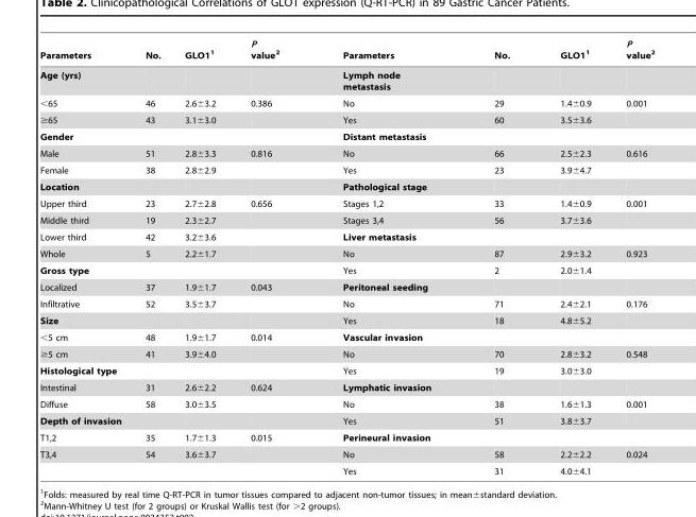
<table><thead><tr><td>Parameters</td><td>No.</td><td>GLO1<sup>1</sup></td><td>P value<sup>2</sup></td><td>Parameters</td><td>No.</td><td>GLO1<sup>1</sup></td><td>P value<sup>2</sup></td></tr></thead><tbody><tr><td>Age (yrs)</td><td></td><td></td><td></td><td>Lymph node metastasis</td><td></td><td></td><td></td></tr><tr><td>&lt;65</td><td>46</td><td>2.6±3.2</td><td>0.386</td><td>No</td><td>29</td><td>1.4±0.9</td><td>0.001</td></tr><tr><td>≥65</td><td>43</td><td>3.1±3.0</td><td></td><td>Yes</td><td>60</td><td>3.5±3.6</td><td></td></tr><tr><td>Gender</td><td></td><td></td><td></td><td>Distant metastasis</td><td></td><td></td><td></td></tr><tr><td>Male</td><td>51</td><td>2.8±3.3</td><td>0.816</td><td>No</td><td>66</td><td>2.5±2.3</td><td>0.616</td></tr><tr><td>Female</td><td>38</td><td>2.8±2.9</td><td></td><td>Yes</td><td>23</td><td>3.9±4.7</td><td></td></tr><tr><td>Location</td><td></td><td></td><td></td><td>Pathological stage</td><td></td><td></td><td></td></tr><tr><td>Upper third</td><td>23</td><td>2.7±2.8</td><td>0.656</td><td>Stages 1,2</td><td>33</td><td>1.4±0.9</td><td>0.001</td></tr><tr><td>Middle third</td><td>19</td><td>2.3±2.7</td><td></td><td>Stages 3,4</td><td>56</td><td>3.7±3.6</td><td></td></tr><tr><td>Lower third</td><td>42</td><td>3.2±3.6</td><td></td><td>Liver metastasis</td><td></td><td></td><td></td></tr><tr><td>Whole</td><td>5</td><td>2.2±1.7</td><td></td><td>No</td><td>87</td><td>2.9±3.2</td><td>0.923</td></tr><tr><td>Gross type</td><td></td><td></td><td></td><td>Yes</td><td>2</td><td>2.0±1.4</td><td></td></tr><tr><td>Localized</td><td>37</td><td>1.9±1.7</td><td>0.043</td><td>Peritoneal seeding</td><td></td><td></td><td></td></tr><tr><td>Infiltrative</td><td>52</td><td>3.5±3.7</td><td></td><td>No</td><td>71</td><td>2.4±2.1</td><td>0.176</td></tr><tr><td>Size</td><td></td><td></td><td></td><td>Yes</td><td>18</td><td>4.8±5.2</td><td></td></tr><tr><td>&lt;5 cm</td><td>48</td><td>1.9±1.7</td><td>0.014</td><td>Vascular invasion</td><td></td><td></td><td></td></tr><tr><td>≥5 cm</td><td>41</td><td>3.9±4.0</td><td></td><td>No</td><td>70</td><td>2.8±3.2</td><td>0.548</td></tr><tr><td>Histological type</td><td></td><td></td><td></td><td>Yes</td><td>19</td><td>3.0±3.0</td><td></td></tr><tr><td>Intestinal</td><td>31</td><td>2.6±2.2</td><td>0.624</td><td>Lymphatic invasion</td><td></td><td></td><td></td></tr><tr><td>Diffuse</td><td>58</td><td>3.0±3.5</td><td></td><td>No</td><td>38</td><td>1.6±1.3</td><td>0.001</td></tr><tr><td>Depth of invasion</td><td></td><td></td><td></td><td>Yes</td><td>51</td><td>3.8±3.7</td><td></td></tr><tr><td>T1,2</td><td>35</td><td>1.7±1.3</td><td>0.015</td><td>Perineural invasion</td><td></td><td></td><td></td></tr><tr><td>T3,4</td><td>54</td><td>3.6±3.7</td><td></td><td>No</td><td>58</td><td>2.2±2.2</td><td>0.024</td></tr><tr><td colspan="2"></td><td></td><td></td><td>Yes</td><td>31</td><td>4.0±4.1</td><td></td></tr></tbody></table>